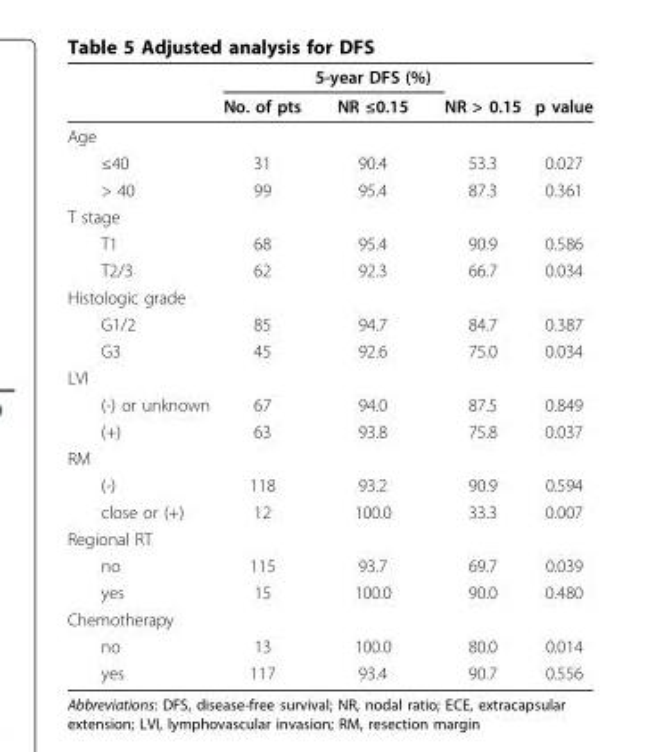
<table><thead><tr><td rowspan="2"></td><td rowspan="2">No. of pts</td><td rowspan="2">5-year DFS (%) NR ≤0.15</td><td rowspan="2">NR &gt; 0.15</td><td rowspan="2">p value</td></tr><tr></tr></thead><tbody><tr><td colspan="5">Age</td></tr><tr><td>≤40</td><td>31</td><td>90.4</td><td>53.3</td><td>0.027</td></tr><tr><td>&gt; 40</td><td>99</td><td>95.4</td><td>87.3</td><td>0.361</td></tr><tr><td colspan="5">T stage</td></tr><tr><td>T1</td><td>68</td><td>95.4</td><td>90.9</td><td>0.586</td></tr><tr><td>T2/3</td><td>62</td><td>92.3</td><td>66.7</td><td>0.034</td></tr><tr><td colspan="5">Histologic grade</td></tr><tr><td>G1/2</td><td>85</td><td>94.7</td><td>84.7</td><td>0.387</td></tr><tr><td>G3</td><td>45</td><td>92.6</td><td>75.0</td><td>0.034</td></tr><tr><td colspan="5">LVI</td></tr><tr><td>(-) or unknown</td><td>67</td><td>94.0</td><td>87.5</td><td>0.849</td></tr><tr><td>(+)</td><td>63</td><td>93.8</td><td>75.8</td><td>0.037</td></tr><tr><td colspan="5">RM</td></tr><tr><td>(-)</td><td>118</td><td>93.2</td><td>90.9</td><td>0.594</td></tr><tr><td>close or (+)</td><td>12</td><td>100.0</td><td>33.3</td><td>0.007</td></tr><tr><td colspan="5">Regional RT</td></tr><tr><td>no</td><td>115</td><td>93.7</td><td>69.7</td><td>0.039</td></tr><tr><td>yes</td><td>15</td><td>100.0</td><td>90.0</td><td>0.480</td></tr><tr><td colspan="5">Chemotherapy</td></tr><tr><td>no</td><td>13</td><td>100.0</td><td>80.0</td><td>0.014</td></tr><tr><td>yes</td><td>117</td><td>93.4</td><td>90.7</td><td>0.556</td></tr></tbody></table>